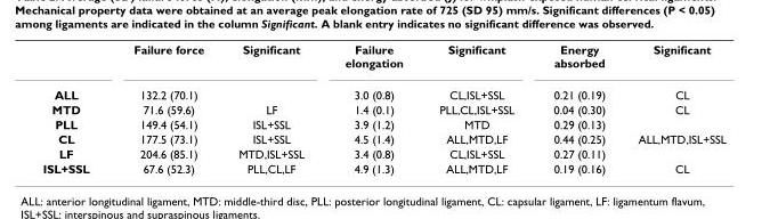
<table><thead><tr><td></td><td>Failure force</td><td>Significant</td><td>Failure elongation</td><td>Significant</td><td>Energy absorbed</td><td>Significant</td></tr></thead><tbody><tr><td>ALL</td><td>132.2 (70.1)</td><td></td><td>3.0 (0.8)</td><td>CL,ISL+SSL</td><td>0.21 (0.19)</td><td>CL</td></tr><tr><td>MTD</td><td>71.6 (59.6)</td><td>LF</td><td>1.4 (0.1)</td><td>PLL,CL,ISL+SSL</td><td>0.04 (0.30)</td><td>CL</td></tr><tr><td>PLL</td><td>149.4 (54.1)</td><td>ISL+SSL</td><td>3.9 (1.2)</td><td>MTD</td><td>0.29 (0.13)</td><td></td></tr><tr><td>CL</td><td>177.5 (73.1)</td><td>ISL+SSL</td><td>4.5 (1.4)</td><td>ALL,MTD,LF</td><td>0.44 (0.25)</td><td>ALL,MTD,ISL+SSL</td></tr><tr><td>LF</td><td>204.6 (85.1)</td><td>MTD,ISL+SSL</td><td>3.4 (0.8)</td><td>CL,ISL+SSL</td><td>0.27 (0.11)</td><td></td></tr><tr><td>ISL+SSL</td><td>67.6 (52.3)</td><td>PLL,CL,LF</td><td>4.9 (1.3)</td><td>ALL,MTD,LF</td><td>0.19 (0.16)</td><td>CL</td></tr></tbody></table>